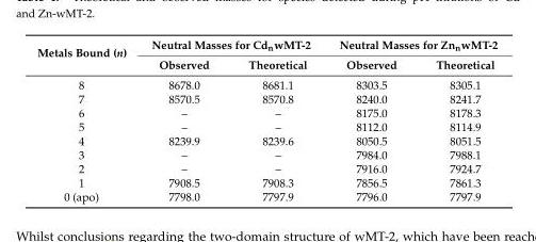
<table><thead><tr><td rowspan="2">Metals Bound (n)</td><td colspan="2">Neutral Masses for Cd<sub>n</sub>wMT-2</td><td colspan="2">Neutral Masses for Zn<sub>n</sub>wMT-2</td></tr><tr><td>Observed</td><td>Theoretical</td><td>Observed</td><td>Theoretical</td></tr></thead><tbody><tr><td>8</td><td>8678.0</td><td>8681.1</td><td>8303.5</td><td>8305.1</td></tr><tr><td>7</td><td>8570.5</td><td>8570.8</td><td>8240.0</td><td>8241.7</td></tr><tr><td>6</td><td>–</td><td>–</td><td>8175.0</td><td>8178.3</td></tr><tr><td>5</td><td>–</td><td>–</td><td>8112.0</td><td>8114.9</td></tr><tr><td>4</td><td>8239.9</td><td>8239.6</td><td>8050.5</td><td>8051.5</td></tr><tr><td>3</td><td>–</td><td>–</td><td>7984.0</td><td>7988.1</td></tr><tr><td>2</td><td>–</td><td>–</td><td>7916.0</td><td>7924.7</td></tr><tr><td>1</td><td>7908.5</td><td>7908.3</td><td>7856.5</td><td>7861.3</td></tr><tr><td>0 (apo)</td><td>7798.0</td><td>7797.9</td><td>7796.0</td><td>7797.9</td></tr></tbody></table>